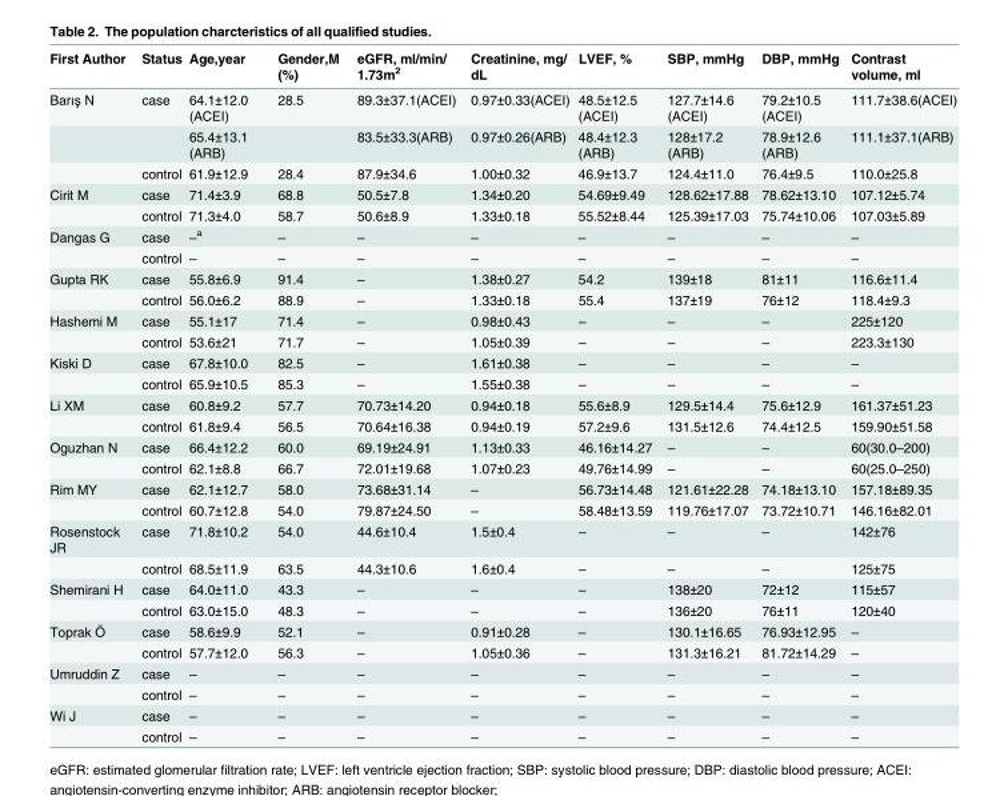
<table><thead><tr><td>First Author</td><td>Status</td><td>Age,year</td><td>Gender,M (%)</td><td>eGFR, ml/min/ 1.73m<sup>2</sup></td><td>Creatinine, mg/ dL</td><td>LVEF, %</td><td>SBP, mmHg</td><td>DBP, mmHg</td><td>Contrast volume, ml</td></tr></thead><tbody><tr><td rowspan="3">Barış N</td><td>case</td><td>64.1±12.0 (ACEI)</td><td>28.5</td><td>89.3±37.1(ACEI)</td><td>0.97±0.33(ACEI)</td><td>48.5±12.5 (ACEI)</td><td>127.7±14.6 (ACEI)</td><td>79.2±10.5 (ACEI)</td><td>111.7±38.6(ACEI)</td></tr><tr><td></td><td>65.4±13.1 (ARB)</td><td></td><td>83.5±33.3(ARB)</td><td>0.97±0.26(ARB)</td><td>48.4±12.3 (ARB)</td><td>128±17.2 (ARB)</td><td>78.9±12.6 (ARB)</td><td>111.1±37.1(ARB)</td></tr><tr><td>control</td><td>61.9±12.9</td><td>28.4</td><td>87.9±34.6</td><td>1.00±0.32</td><td>46.9±13.7</td><td>124.4±11.0</td><td>76.4±9.5</td><td>110.0±25.8</td></tr><tr><td rowspan="2">Cirit M</td><td>case</td><td>71.4±3.9</td><td>68.8</td><td>50.5±7.8</td><td>1.34±0.20</td><td>54.69±9.49</td><td>128.62±17.88</td><td>78.62±13.10</td><td>107.12±5.74</td></tr><tr><td>control</td><td>71.3±4.0</td><td>58.7</td><td>50.6±8.9</td><td>1.33±0.18</td><td>55.52±8.44</td><td>125.39±17.03</td><td>75.74±10.06</td><td>107.03±5.89</td></tr><tr><td rowspan="2">Dangas G</td><td>case</td><td>–<sup>a</sup></td><td>–</td><td>–</td><td>–</td><td>–</td><td>–</td><td>–</td><td>–</td></tr><tr><td>control</td><td>–</td><td>–</td><td>–</td><td>–</td><td>–</td><td>–</td><td>–</td><td>–</td></tr><tr><td rowspan="2">Gupta RK</td><td>case</td><td>55.8±6.9</td><td>91.4</td><td>–</td><td>1.38±0.27</td><td>54.2</td><td>139±18</td><td>81±11</td><td>116.6±11.4</td></tr><tr><td>control</td><td>56.0±6.2</td><td>88.9</td><td>–</td><td>1.33±0.18</td><td>55.4</td><td>137±19</td><td>76±12</td><td>118.4±9.3</td></tr><tr><td rowspan="2">Hashemi M</td><td>case</td><td>55.1±17</td><td>71.4</td><td>–</td><td>0.98±0.43</td><td>–</td><td>–</td><td>–</td><td>225±120</td></tr><tr><td>control</td><td>53.6±21</td><td>71.7</td><td>–</td><td>1.05±0.39</td><td>–</td><td>–</td><td>–</td><td>223.3±130</td></tr><tr><td rowspan="2">Kiski D</td><td>case</td><td>67.8±10.0</td><td>82.5</td><td>–</td><td>1.61±0.38</td><td>–</td><td>–</td><td>–</td><td>–</td></tr><tr><td>control</td><td>65.9±10.5</td><td>85.3</td><td>–</td><td>1.55±0.38</td><td>–</td><td>–</td><td>–</td><td>–</td></tr><tr><td rowspan="2">Li XM</td><td>case</td><td>60.8±9.2</td><td>57.7</td><td>70.73±14.20</td><td>0.94±0.18</td><td>55.6±8.9</td><td>129.5±14.4</td><td>75.6±12.9</td><td>161.37±51.23</td></tr><tr><td>control</td><td>61.8±9.4</td><td>56.5</td><td>70.64±16.38</td><td>0.94±0.19</td><td>57.2±9.6</td><td>131.5±12.6</td><td>74.4±12.5</td><td>159.90±51.58</td></tr><tr><td rowspan="2">Oguzhan N</td><td>case</td><td>66.4±12.2</td><td>60.0</td><td>69.19±24.91</td><td>1.13±0.33</td><td>46.16±14.27</td><td>–</td><td>–</td><td>60(30.0–200)</td></tr><tr><td>control</td><td>62.1±8.8</td><td>66.7</td><td>72.01±19.68</td><td>1.07±0.23</td><td>49.76±14.99</td><td>–</td><td>–</td><td>60(25.0–250)</td></tr><tr><td rowspan="2">Rim MY</td><td>case</td><td>62.1±12.7</td><td>58.0</td><td>73.68±31.14</td><td>–</td><td>56.73±14.48</td><td>121.61±22.28</td><td>74.18±13.10</td><td>157.18±89.35</td></tr><tr><td>control</td><td>60.7±12.8</td><td>54.0</td><td>79.87±24.50</td><td>–</td><td>58.48±13.59</td><td>119.76±17.07</td><td>73.72±10.71</td><td>146.16±82.01</td></tr><tr><td rowspan="2">Rosenstock JR</td><td>case</td><td>71.8±10.2</td><td>54.0</td><td>44.6±10.4</td><td>1.5±0.4</td><td>–</td><td>–</td><td>–</td><td>142±76</td></tr><tr><td>control</td><td>68.5±11.9</td><td>63.5</td><td>44.3±10.6</td><td>1.6±0.4</td><td>–</td><td>–</td><td>–</td><td>125±75</td></tr><tr><td rowspan="2">Shemirani H</td><td>case</td><td>64.0±11.0</td><td>43.3</td><td>–</td><td>–</td><td>–</td><td>138±20</td><td>72±12</td><td>115±57</td></tr><tr><td>control</td><td>63.0±15.0</td><td>48.3</td><td>–</td><td>–</td><td>–</td><td>136±20</td><td>76±11</td><td>120±40</td></tr><tr><td rowspan="2">Toprak Ö</td><td>case</td><td>58.6±9.9</td><td>52.1</td><td>–</td><td>0.91±0.28</td><td>–</td><td>130.1±16.65</td><td>76.93±12.95</td><td>–</td></tr><tr><td>control</td><td>57.7±12.0</td><td>56.3</td><td>–</td><td>1.05±0.36</td><td>–</td><td>131.3±16.21</td><td>81.72±14.29</td><td>–</td></tr><tr><td rowspan="2">Umruddin Z</td><td>case</td><td>–</td><td>–</td><td>–</td><td>–</td><td>–</td><td>–</td><td>–</td><td>–</td></tr><tr><td>control</td><td>–</td><td>–</td><td>–</td><td>–</td><td>–</td><td>–</td><td>–</td><td>–</td></tr><tr><td rowspan="2">Wi J</td><td>case</td><td>–</td><td>–</td><td>–</td><td>–</td><td>–</td><td>–</td><td>–</td><td>–</td></tr><tr><td>control</td><td>–</td><td>–</td><td>–</td><td>–</td><td>–</td><td>–</td><td>–</td><td>–</td></tr></tbody></table>